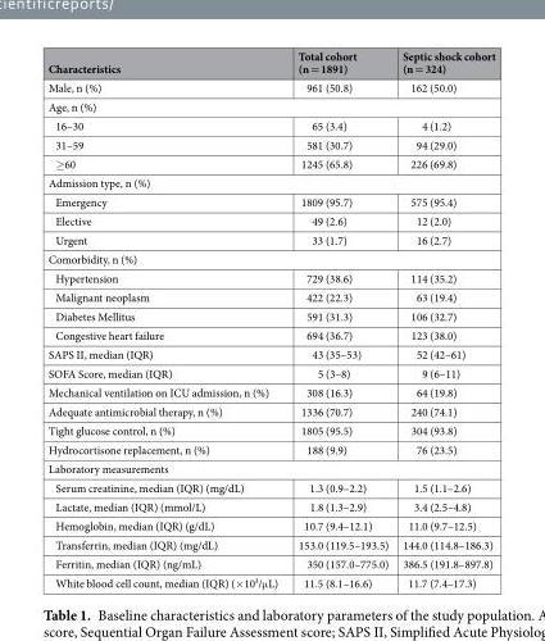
<table><thead><tr><td>Characteristics</td><td>Total cohort (n = 1891)</td><td>Septic shock cohort (n = 324)</td></tr></thead><tbody><tr><td>Male, n (%)</td><td>961 (50.8)</td><td>162 (50.0)</td></tr><tr><td colspan="3">Age, n (%)</td></tr><tr><td>16–30</td><td>65 (3.4)</td><td>4 (1.2)</td></tr><tr><td>31–59</td><td>581 (30.7)</td><td>94 (29.0)</td></tr><tr><td>≥60</td><td>1245 (65.8)</td><td>226 (69.8)</td></tr><tr><td colspan="3">Admission type, n (%)</td></tr><tr><td>Emergency</td><td>1809 (95.7)</td><td>575 (95.4)</td></tr><tr><td>Elective</td><td>49 (2.6)</td><td>12 (2.0)</td></tr><tr><td>Urgent</td><td>33 (1.7)</td><td>16 (2.7)</td></tr><tr><td colspan="3">Comorbidity, n (%)</td></tr><tr><td>Hypertension</td><td>729 (38.6)</td><td>114 (35.2)</td></tr><tr><td>Malignant neoplasm</td><td>422 (22.3)</td><td>63 (19.4)</td></tr><tr><td>Diabetes Mellitus</td><td>591 (31.3)</td><td>106 (32.7)</td></tr><tr><td>Congestive heart failure</td><td>694 (36.7)</td><td>123 (38.0)</td></tr><tr><td>SAPS II, median (IQR)</td><td>43 (35–53)</td><td>52 (42–61)</td></tr><tr><td>SOFA Score, median (IQR)</td><td>5 (3–8)</td><td>9 (6–11)</td></tr><tr><td>Mechanical ventilation on ICU admission, n (%)</td><td>308 (16.3)</td><td>64 (19.8)</td></tr><tr><td>Adequate antimicrobial therapy, n (%)</td><td>1336 (70.7)</td><td>240 (74.1)</td></tr><tr><td>Tight glucose control, n (%)</td><td>1805 (95.5)</td><td>304 (93.8)</td></tr><tr><td>Hydrocortisone replacement, n (%)</td><td>188 (9.9)</td><td>76 (23.5)</td></tr><tr><td colspan="3">Laboratory measurements</td></tr><tr><td>Serum creatinine, median (IQR) (mg/dL)</td><td>1.3 (0.9–2.2)</td><td>1.5 (1.1–2.6)</td></tr><tr><td>Lactate, median (IQR) (mmol/L)</td><td>1.8 (1.3–2.9)</td><td>3.4 (2.5–4.8)</td></tr><tr><td>Hemoglobin, median (IQR) (g/dL)</td><td>10.7 (9.4–12.1)</td><td>11.0 (9.7–12.5)</td></tr><tr><td>Transferrin, median (IQR) (mg/dL)</td><td>153.0 (119.5–193.5)</td><td>144.0 (114.8–186.3)</td></tr><tr><td>Ferritin, median (IQR) (ng/mL)</td><td>350 (157.0–775.0)</td><td>386.5 (191.8–897.8)</td></tr><tr><td>White blood cell count, median (IQR) (×10<sup>3</sup>/μL)</td><td>11.5 (8.1–16.6)</td><td>11.7 (7.4–17.3)</td></tr></tbody></table>